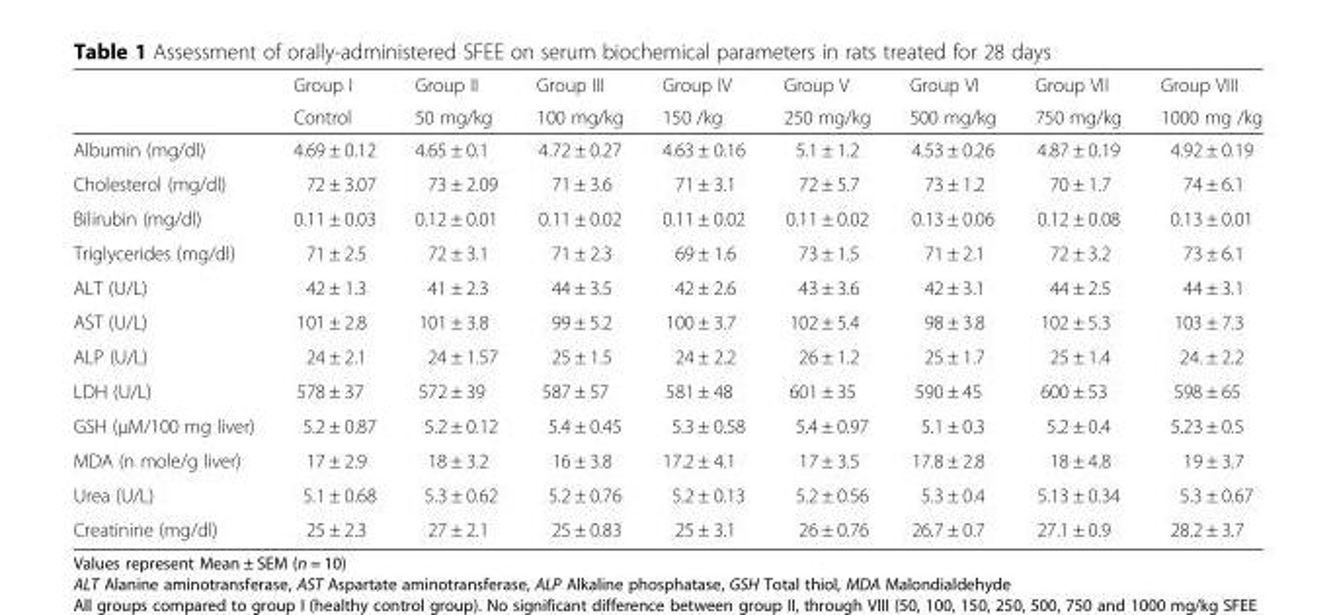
<table><thead><tr><td rowspan="2"></td><td rowspan="2">Group I Control</td><td rowspan="2">Group II 50 mg/kg</td><td rowspan="2">Group III 100 mg/kg</td><td rowspan="2">Group IV 150 /kg</td><td rowspan="2">Group V 250 mg/kg</td><td rowspan="2">Group VI 500 mg/kg</td><td rowspan="2">Group VII 750 mg/kg</td><td rowspan="2">Group VIII 1000 mg /kg</td></tr><tr></tr></thead><tbody><tr><td>Albumin (mg/dl)</td><td>4.69 ± 0.12</td><td>4.65 ± 0.1</td><td>4.72 ± 0.27</td><td>4.63 ± 0.16</td><td>5.1 ± 1.2</td><td>4.53 ± 0.26</td><td>4.87 ± 0.19</td><td>4.92 ± 0.19</td></tr><tr><td>Cholesterol (mg/dl)</td><td>72 ± 3.07</td><td>73 ± 2.09</td><td>71 ± 3.6</td><td>71 ± 3.1</td><td>72 ± 5.7</td><td>73 ± 1.2</td><td>70 ± 1.7</td><td>74 ± 6.1</td></tr><tr><td>Bilirubin (mg/dl)</td><td>0.11 ± 0.03</td><td>0.12 ± 0.01</td><td>0.11 ± 0.02</td><td>0.11 ± 0.02</td><td>0.11 ± 0.02</td><td>0.13 ± 0.06</td><td>0.12 ± 0.08</td><td>0.13 ± 0.01</td></tr><tr><td>Triglycerides (mg/dl)</td><td>71 ± 2.5</td><td>72 ± 3.1</td><td>71 ± 2.3</td><td>69 ± 1.6</td><td>73 ± 1.5</td><td>71 ± 2.1</td><td>72 ± 3.2</td><td>73 ± 6.1</td></tr><tr><td>ALT (U/L)</td><td>42 ± 1.3</td><td>41 ± 2.3</td><td>44 ± 3.5</td><td>42 ± 2.6</td><td>43 ± 3.6</td><td>42 ± 3.1</td><td>44 ± 2.5</td><td>44 ± 3.1</td></tr><tr><td>AST (U/L)</td><td>101 ± 2.8</td><td>101 ± 3.8</td><td>99 ± 5.2</td><td>100 ± 3.7</td><td>102 ± 5.4</td><td>98 ± 3.8</td><td>102 ± 5.3</td><td>103 ± 7.3</td></tr><tr><td>ALP (U/L)</td><td>24 ± 2.1</td><td>24 ± 1.57</td><td>25 ± 1.5</td><td>24 ± 2.2</td><td>26 ± 1.2</td><td>25 ± 1.7</td><td>25 ± 1.4</td><td>24. ± 2.2</td></tr><tr><td>LDH (U/L)</td><td>578 ± 37</td><td>572 ± 39</td><td>587 ± 57</td><td>581 ± 48</td><td>601 ± 35</td><td>590 ± 45</td><td>600 ± 53</td><td>598 ± 65</td></tr><tr><td>GSH (μM/100 mg liver)</td><td>5.2 ± 0.87</td><td>5.2 ± 0.12</td><td>5.4 ± 0.45</td><td>5.3 ± 0.58</td><td>5.4 ± 0.97</td><td>5.1 ± 0.3</td><td>5.2 ± 0.4</td><td>5.23 ± 0.5</td></tr><tr><td>MDA (n mole/g liver)</td><td>17 ± 2.9</td><td>18 ± 3.2</td><td>16 ± 3.8</td><td>17.2 ± 4.1</td><td>17 ± 3.5</td><td>17.8 ± 2.8</td><td>18 ± 4.8</td><td>19 ± 3.7</td></tr><tr><td>Urea (U/L)</td><td>5.1 ± 0.68</td><td>5.3 ± 0.62</td><td>5.2 ± 0.76</td><td>5.2 ± 0.13</td><td>5.2 ± 0.56</td><td>5.3 ± 0.4</td><td>5.13 ± 0.34</td><td>5.3 ± 0.67</td></tr><tr><td>Creatinine (mg/dl)</td><td>25 ± 2.3</td><td>27 ± 2.1</td><td>25 ± 0.83</td><td>25 ± 3.1</td><td>26 ± 0.76</td><td>26.7 ± 0.7</td><td>27.1 ± 0.9</td><td>28.2 ± 3.7</td></tr></tbody></table>